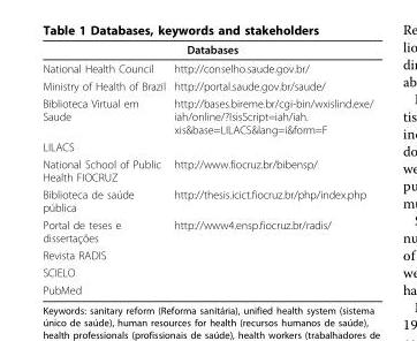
<table><thead><tr><td colspan="2">Databases</td></tr><tr><td>National Health Council</td><td>http://conselho.saude.gov.br/</td></tr></thead><tbody><tr><td>Ministry of Health of Brazil</td><td>http://portal.saude.gov.br/saude/</td></tr><tr><td>Biblioteca Virtual em Saude</td><td>http://bases.bireme.br/cgi-bin/wxislind.exe/ iah/online/?IsisScript=iah/iah. xis&amp;base=LILACS&amp;lang=i&amp;form=F</td></tr><tr><td colspan="2">LILACS</td></tr><tr><td>National School of Public Health FIOCRUZ</td><td>http://www.fiocruz.br/bibensp/</td></tr><tr><td>Biblioteca de saúde pública</td><td>http://thesis.icict.fiocruz.br/php/index.php</td></tr><tr><td>Portal de teses e dissertações</td><td>http://www4.ensp.fiocruz.br/radis/</td></tr><tr><td colspan="2">Revista RADIS</td></tr><tr><td colspan="2">SCIELO</td></tr><tr><td>PubMed</td><td></td></tr></tbody></table>